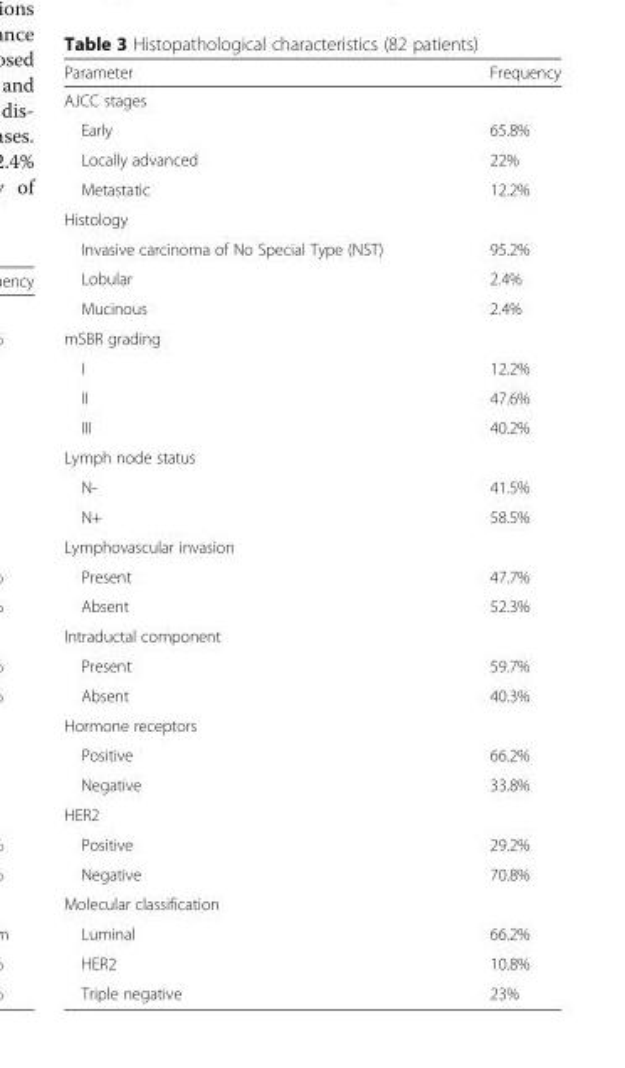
<table><thead><tr><td>Parameter</td><td>Frequency</td></tr></thead><tbody><tr><td colspan="2">AJCC stages</td></tr><tr><td>Early</td><td>65.8%</td></tr><tr><td>Locally advanced</td><td>22%</td></tr><tr><td>Metastatic</td><td>12.2%</td></tr><tr><td colspan="2">Histology</td></tr><tr><td>Invasive carcinoma of No Special Type (NST)</td><td>95.2%</td></tr><tr><td>Lobular</td><td>2.4%</td></tr><tr><td>Mucinous</td><td>2.4%</td></tr><tr><td colspan="2">mSBR grading</td></tr><tr><td>I</td><td>12.2%</td></tr><tr><td>II</td><td>47.6%</td></tr><tr><td>III</td><td>40.2%</td></tr><tr><td colspan="2">Lymph node status</td></tr><tr><td>N-</td><td>41.5%</td></tr><tr><td>N+</td><td>58.5%</td></tr><tr><td colspan="2">Lymphovascular invasion</td></tr><tr><td>Present</td><td>47.7%</td></tr><tr><td>Absent</td><td>52.3%</td></tr><tr><td colspan="2">Intraductal component</td></tr><tr><td>Present</td><td>59.7%</td></tr><tr><td>Absent</td><td>40.3%</td></tr><tr><td colspan="2">Hormone receptors</td></tr><tr><td>Positive</td><td>66.2%</td></tr><tr><td>Negative</td><td>33.8%</td></tr><tr><td colspan="2">HER2</td></tr><tr><td>Positive</td><td>29.2%</td></tr><tr><td>Negative</td><td>70.8%</td></tr><tr><td colspan="2">Molecular classification</td></tr><tr><td>Luminal</td><td>66.2%</td></tr><tr><td>HER2</td><td>10.8%</td></tr><tr><td>Triple negative</td><td>23%</td></tr></tbody></table>